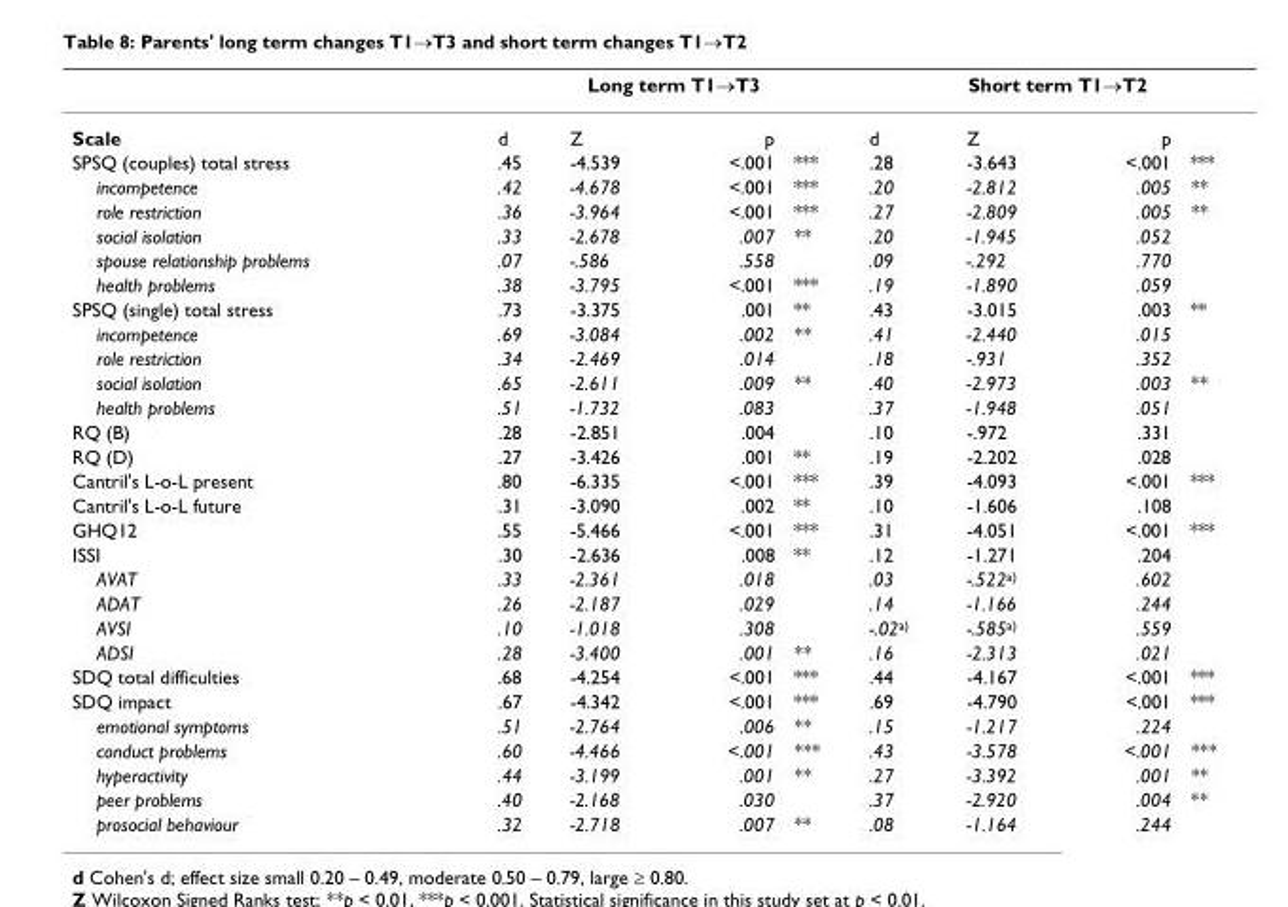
<table><thead><tr><td rowspan="2">Scale</td><td colspan="4">Long term T1→T3</td><td colspan="4">Short term T1→T2</td></tr><tr><td>d</td><td>Z</td><td>p</td><td></td><td>d</td><td>Z</td><td>p</td><td></td></tr></thead><tbody><tr><td>SPSQ (couples) total stress</td><td>.45</td><td>-4.539</td><td>&lt;.001</td><td>***</td><td>.28</td><td>-3.643</td><td>&lt;.001</td><td>***</td></tr><tr><td>incompetence</td><td>.42</td><td>-4.678</td><td>&lt;.001</td><td>***</td><td>.20</td><td>-2.812</td><td>.005</td><td>**</td></tr><tr><td>role restriction</td><td>.36</td><td>-3.964</td><td>&lt;.001</td><td>***</td><td>.27</td><td>-2.809</td><td>.005</td><td>**</td></tr><tr><td>social isolation</td><td>.33</td><td>-2.678</td><td>.007</td><td>**</td><td>.20</td><td>-1.945</td><td>.052</td><td></td></tr><tr><td>spouse relationship problems</td><td>.07</td><td>-.586</td><td>.558</td><td></td><td>.09</td><td>-.292</td><td>.770</td><td></td></tr><tr><td>health problems</td><td>.38</td><td>-3.795</td><td>&lt;.001</td><td>***</td><td>.19</td><td>-1.890</td><td>.059</td><td></td></tr><tr><td>SPSQ (single) total stress</td><td>.73</td><td>-3.375</td><td>.001</td><td>**</td><td>.43</td><td>-3.015</td><td>.003</td><td>**</td></tr><tr><td>incompetence</td><td>.69</td><td>-3.084</td><td>.002</td><td>**</td><td>.41</td><td>-2.440</td><td>.015</td><td></td></tr><tr><td>role restriction</td><td>.34</td><td>-2.469</td><td>.014</td><td></td><td>.18</td><td>-.931</td><td>.352</td><td></td></tr><tr><td>social isolation</td><td>.65</td><td>-2.611</td><td>.009</td><td>**</td><td>.40</td><td>-2.973</td><td>.003</td><td>**</td></tr><tr><td>health problems</td><td>.51</td><td>-1.732</td><td>.083</td><td></td><td>.37</td><td>-1.948</td><td>.051</td><td></td></tr><tr><td>RQ (B)</td><td>.28</td><td>-2.851</td><td>.004</td><td></td><td>.10</td><td>-.972</td><td>.331</td><td></td></tr><tr><td>RQ (D)</td><td>.27</td><td>-3.426</td><td>.001</td><td>**</td><td>.19</td><td>-2.202</td><td>.028</td><td></td></tr><tr><td>Cantril&#x27;s L-o-L present</td><td>.80</td><td>-6.335</td><td>&lt;.001</td><td>***</td><td>.39</td><td>-4.093</td><td>&lt;.001</td><td>***</td></tr><tr><td>Cantril&#x27;s L-o-L future</td><td>.31</td><td>-3.090</td><td>.002</td><td>**</td><td>.10</td><td>-1.606</td><td>.108</td><td></td></tr><tr><td>GHQ12</td><td>.55</td><td>-5.466</td><td>&lt;.001</td><td>***</td><td>.31</td><td>-4.051</td><td>&lt;.001</td><td>***</td></tr><tr><td>ISSI</td><td>.30</td><td>-2.636</td><td>.008</td><td>**</td><td>.12</td><td>-1.271</td><td>.204</td><td></td></tr><tr><td>AVAT</td><td>.33</td><td>-2.361</td><td>.018</td><td></td><td>.03</td><td>-.522<sup>a)</sup></td><td>.602</td><td></td></tr><tr><td>ADAT</td><td>.26</td><td>-2.187</td><td>.029</td><td></td><td>.14</td><td>-1.166</td><td>.244</td><td></td></tr><tr><td>AVSI</td><td>.10</td><td>-1.018</td><td>.308</td><td></td><td>-.02<sup>a)</sup></td><td>-.585<sup>a)</sup></td><td>.559</td><td></td></tr><tr><td>ADSI</td><td>.28</td><td>-3.400</td><td>.001</td><td>**</td><td>.16</td><td>-2.313</td><td>.021</td><td></td></tr><tr><td>SDQ total difficulties</td><td>.68</td><td>-4.254</td><td>&lt;.001</td><td>***</td><td>.44</td><td>-4.167</td><td>&lt;.001</td><td>***</td></tr><tr><td>SDQ impact</td><td>.67</td><td>-4.342</td><td>&lt;.001</td><td>***</td><td>.69</td><td>-4.790</td><td>&lt;.001</td><td>***</td></tr><tr><td>emotional symptoms</td><td>.51</td><td>-2.764</td><td>.006</td><td>**</td><td>.15</td><td>-1.217</td><td>.224</td><td></td></tr><tr><td>conduct problems</td><td>.60</td><td>-4.466</td><td>&lt;.001</td><td>***</td><td>.43</td><td>-3.578</td><td>&lt;.001</td><td>***</td></tr><tr><td>hyperactivity</td><td>.44</td><td>-3.199</td><td>.001</td><td>**</td><td>.27</td><td>-3.392</td><td>.001</td><td>**</td></tr><tr><td>peer problems</td><td>.40</td><td>-2.168</td><td>.030</td><td></td><td>.37</td><td>-2.920</td><td>.004</td><td>**</td></tr><tr><td>prosocial behaviour</td><td>.32</td><td>-2.718</td><td>.007</td><td>**</td><td>.08</td><td>-1.164</td><td>.244</td><td></td></tr></tbody></table>